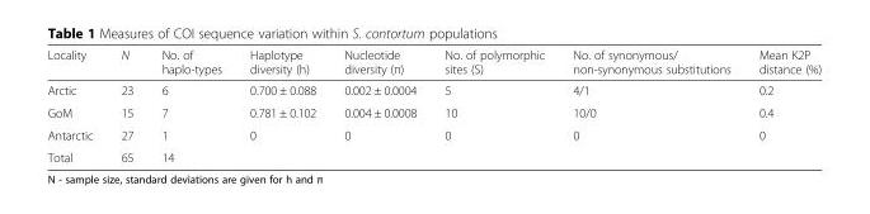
<table><thead><tr><td>Locality</td><td>N</td><td>No. of haplo-types</td><td>Haplotype diversity (h)</td><td>Nucleotide diversity (π)</td><td>No. of polymorphic sites (S)</td><td>No. of synonymous/ non-synonymous substitutions</td><td>Mean K2P distance (%)</td></tr></thead><tbody><tr><td>Arctic</td><td>23</td><td>6</td><td>0.700 ± 0.088</td><td>0.002 ± 0.0004</td><td>5</td><td>4/1</td><td>0.2</td></tr><tr><td>GoM</td><td>15</td><td>7</td><td>0.781 ± 0.102</td><td>0.004 ± 0.0008</td><td>10</td><td>10/0</td><td>0.4</td></tr><tr><td>Antarctic</td><td>27</td><td>1</td><td>0</td><td>0</td><td>0</td><td>0</td><td>0</td></tr><tr><td>Total</td><td>65</td><td>14</td><td></td><td></td><td></td><td></td><td></td></tr></tbody></table>